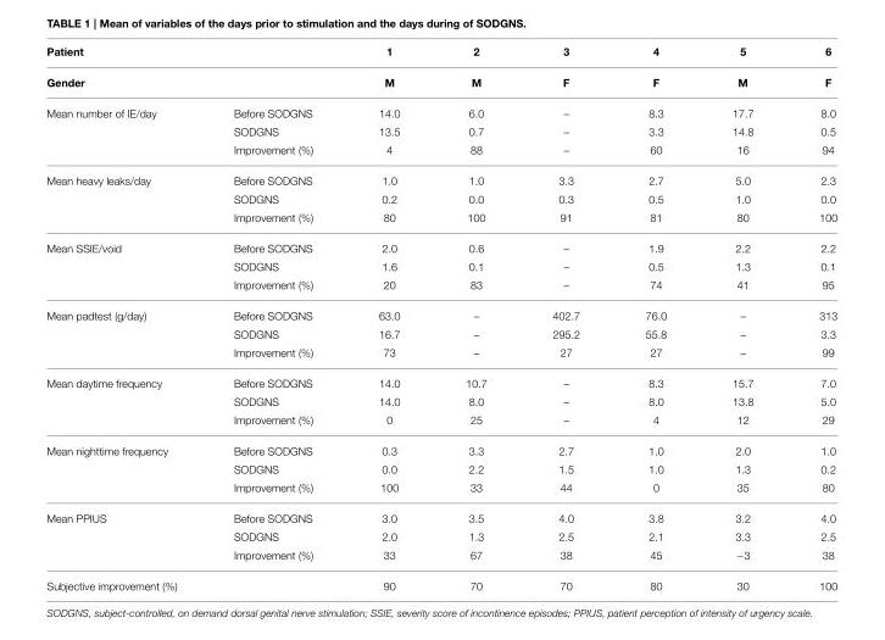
<table><thead><tr><td rowspan="2" colspan="2">Patient Gender</td><td rowspan="3">1 M 14.0</td><td rowspan="3">2 M 6.0</td><td rowspan="3">3 F –</td><td rowspan="3">4 F 8.3</td><td rowspan="3">5 M 17.7</td><td rowspan="3">6 F 8.0</td></tr><tr></tr><tr><td>Mean number of IE/day</td><td>Before SODGNS</td></tr></thead><tbody><tr><td></td><td>SODGNS</td><td>13.5</td><td>0.7</td><td>–</td><td>3.3</td><td>14.8</td><td>0.5</td></tr><tr><td></td><td>Improvement (%)</td><td>4</td><td>88</td><td>–</td><td>60</td><td>16</td><td>94</td></tr><tr><td rowspan="3">Mean heavy leaks/day</td><td>Before SODGNS</td><td>1.0</td><td>1.0</td><td>3.3</td><td>2.7</td><td>5.0</td><td>2.3</td></tr><tr><td>SODGNS</td><td>0.2</td><td>0.0</td><td>0.3</td><td>0.5</td><td>1.0</td><td>0.0</td></tr><tr><td>Improvement (%)</td><td>80</td><td>100</td><td>91</td><td>81</td><td>80</td><td>100</td></tr><tr><td rowspan="3">Mean SSIE/void</td><td>Before SODGNS</td><td>2.0</td><td>0.6</td><td>–</td><td>1.9</td><td>2.2</td><td>2.2</td></tr><tr><td>SODGNS</td><td>1.6</td><td>0.1</td><td>–</td><td>0.5</td><td>1.3</td><td>0.1</td></tr><tr><td>Improvement (%)</td><td>20</td><td>83</td><td>–</td><td>74</td><td>41</td><td>95</td></tr><tr><td rowspan="3">Mean padtest (g/day)</td><td>Before SODGNS</td><td>63.0</td><td>–</td><td>402.7</td><td>76.0</td><td>–</td><td>313</td></tr><tr><td>SODGNS</td><td>16.7</td><td>–</td><td>295.2</td><td>55.8</td><td>–</td><td>3.3</td></tr><tr><td>Improvement (%)</td><td>73</td><td>–</td><td>27</td><td>27</td><td>–</td><td>99</td></tr><tr><td rowspan="3">Mean daytime frequency</td><td>Before SODGNS</td><td>14.0</td><td>10.7</td><td>–</td><td>8.3</td><td>15.7</td><td>7.0</td></tr><tr><td>SODGNS</td><td>14.0</td><td>8.0</td><td>–</td><td>8.0</td><td>13.8</td><td>5.0</td></tr><tr><td>Improvement (%)</td><td>0</td><td>25</td><td>–</td><td>4</td><td>12</td><td>29</td></tr><tr><td rowspan="3">Mean nighttime frequency</td><td>Before SODGNS</td><td>0.3</td><td>3.3</td><td>2.7</td><td>1.0</td><td>2.0</td><td>1.0</td></tr><tr><td>SODGNS</td><td>0.0</td><td>2.2</td><td>1.5</td><td>1.0</td><td>1.3</td><td>0.2</td></tr><tr><td>Improvement (%)</td><td>100</td><td>33</td><td>44</td><td>0</td><td>35</td><td>80</td></tr><tr><td rowspan="3">Mean PPIUS</td><td>Before SODGNS</td><td>3.0</td><td>3.5</td><td>4.0</td><td>3.8</td><td>3.2</td><td>4.0</td></tr><tr><td>SODGNS</td><td>2.0</td><td>1.3</td><td>2.5</td><td>2.1</td><td>3.3</td><td>2.5</td></tr><tr><td>Improvement (%)</td><td>33</td><td>67</td><td>38</td><td>45</td><td>−3</td><td>38</td></tr><tr><td colspan="2">Subjective improvement (%)</td><td>90</td><td>70</td><td>70</td><td>80</td><td>30</td><td>100</td></tr></tbody></table>